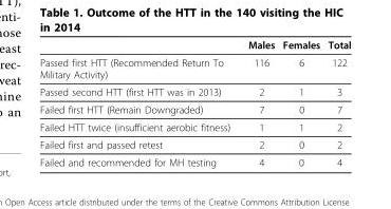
<table><thead><tr><td></td><td>Males</td><td>Females</td><td>Total</td></tr></thead><tbody><tr><td>Passed first HTT (Recommended Return To Military Activity)</td><td>116</td><td>6</td><td>122</td></tr><tr><td>Passed second HTT (first HTT was in 2013)</td><td>2</td><td>1</td><td>3</td></tr><tr><td>Failed first HTT (Remain Downgraded)</td><td>7</td><td>0</td><td>7</td></tr><tr><td>Failed HTT twice (insufficient aerobic fitness)</td><td>1</td><td>1</td><td>2</td></tr><tr><td>Failed first and passed retest</td><td>2</td><td>0</td><td>2</td></tr><tr><td>Failed and recommended for MH testing</td><td>4</td><td>0</td><td>4</td></tr></tbody></table>